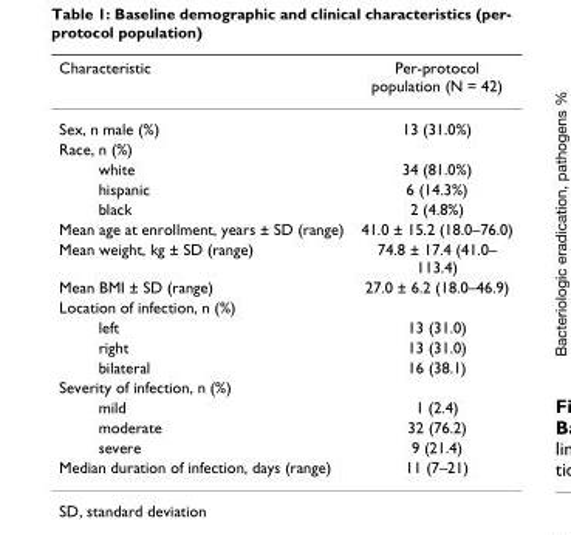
<table><thead><tr><td>Characteristic</td><td>Per-protocol population (N = 42)</td></tr></thead><tbody><tr><td>Sex, n male (%)</td><td>13 (31.0%)</td></tr><tr><td colspan="2">Race, n (%)</td></tr><tr><td>white</td><td>34 (81.0%)</td></tr><tr><td>hispanic</td><td>6 (14.3%)</td></tr><tr><td>black</td><td>2 (4.8%)</td></tr><tr><td>Mean age at enrollment, years ± SD (range)</td><td>41.0 ± 15.2 (18.0–76.0)</td></tr><tr><td>Mean weight, kg ± SD (range)</td><td>74.8 ± 17.4 (41.0– 113.4)</td></tr><tr><td>Mean BMI ± SD (range)</td><td>27.0 ± 6.2 (18.0–46.9)</td></tr><tr><td colspan="2">Location of infection, n (%)</td></tr><tr><td>left</td><td>13 (31.0)</td></tr><tr><td>right</td><td>13 (31.0)</td></tr><tr><td>bilateral</td><td>16 (38.1)</td></tr><tr><td colspan="2">Severity of infection, n (%)</td></tr><tr><td>mild</td><td>1 (2.4)</td></tr><tr><td>moderate</td><td>32 (76.2)</td></tr><tr><td>severe</td><td>9 (21.4)</td></tr><tr><td>Median duration of infection, days (range)</td><td>11 (7–21)</td></tr></tbody></table>